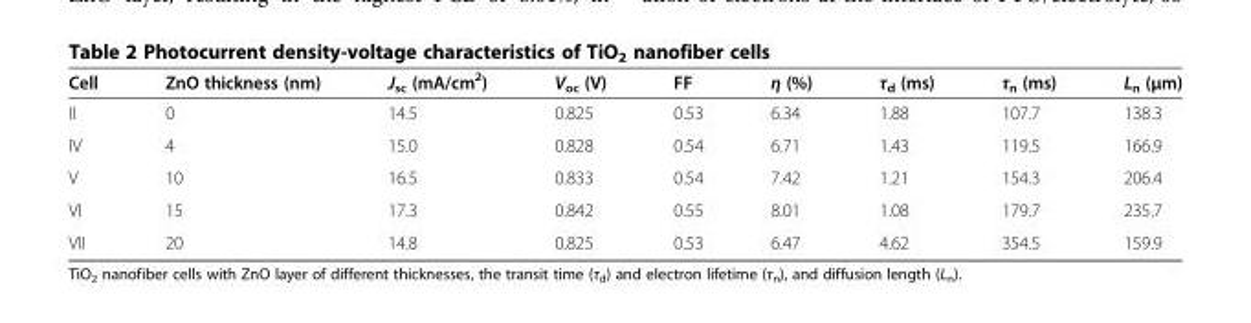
<table><thead><tr><td>Cell</td><td>ZnO thickness (nm)</td><td>J<sub>sc</sub> (mA/cm<sup>2</sup>)</td><td>V<sub>oc</sub> (V)</td><td>FF</td><td>η (%)</td><td>τ<sub>d</sub> (ms)</td><td>τ<sub>n</sub> (ms)</td><td>L<sub>n</sub> (μm)</td></tr></thead><tbody><tr><td>II</td><td>0</td><td>14.5</td><td>0.825</td><td>0.53</td><td>6.34</td><td>1.88</td><td>107.7</td><td>138.3</td></tr><tr><td>IV</td><td>4</td><td>15.0</td><td>0.828</td><td>0.54</td><td>6.71</td><td>1.43</td><td>119.5</td><td>166.9</td></tr><tr><td>V</td><td>10</td><td>16.5</td><td>0.833</td><td>0.54</td><td>7.42</td><td>1.21</td><td>154.3</td><td>206.4</td></tr><tr><td>VI</td><td>15</td><td>17.3</td><td>0.842</td><td>0.55</td><td>8.01</td><td>1.08</td><td>179.7</td><td>235.7</td></tr><tr><td>VII</td><td>20</td><td>14.8</td><td>0.825</td><td>0.53</td><td>6.47</td><td>4.62</td><td>354.5</td><td>159.9</td></tr></tbody></table>